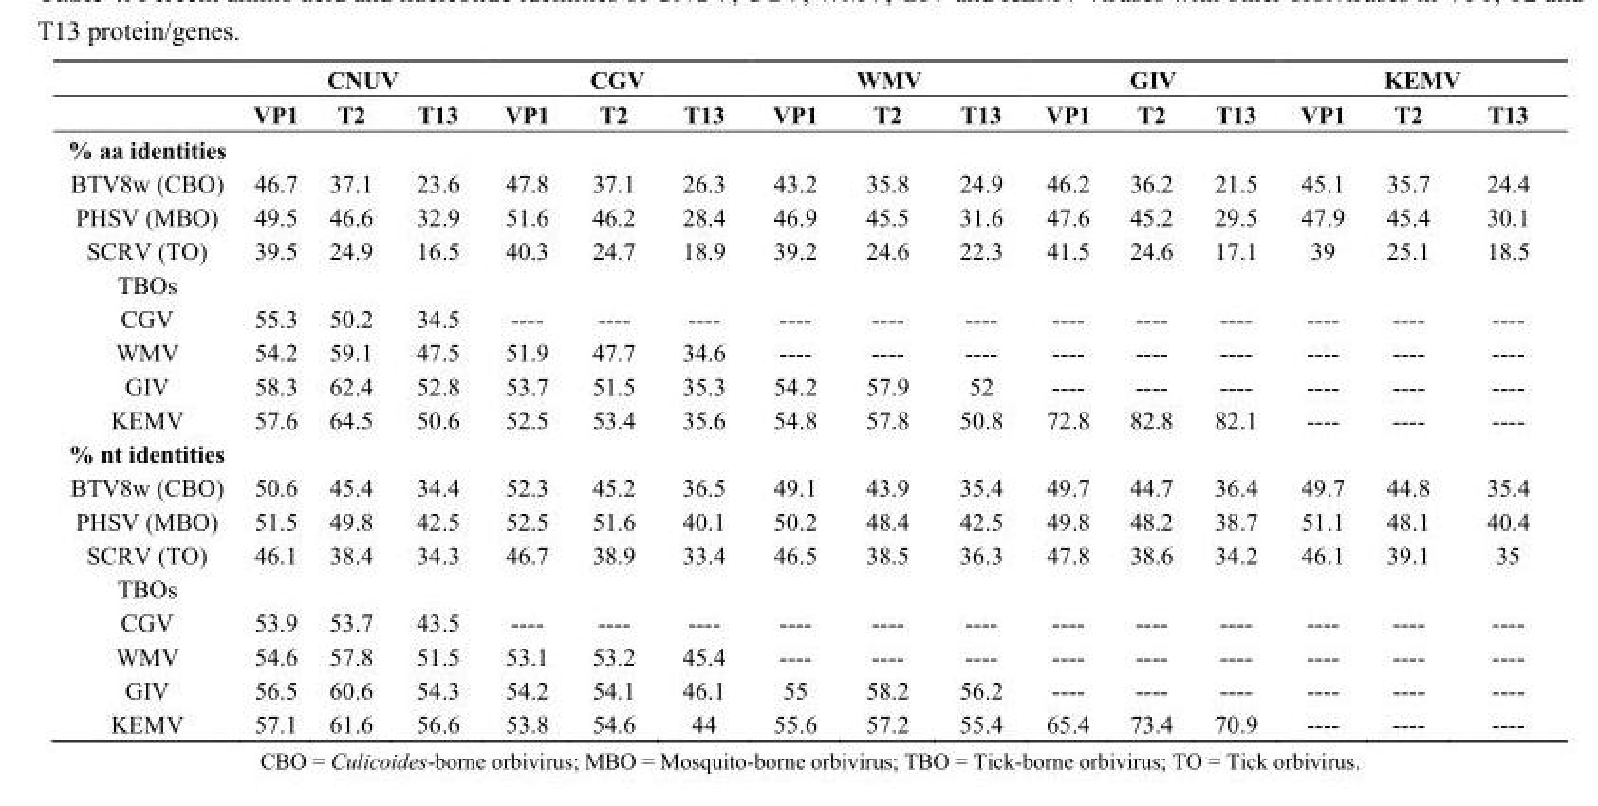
<table><thead><tr><td rowspan="2"></td><td colspan="3">CNUV</td><td colspan="3">CGV</td><td colspan="3">WMV</td><td colspan="3">GIV</td><td colspan="3">KEMV</td></tr><tr><td>VP1</td><td>T2</td><td>T13</td><td>VP1</td><td>T2</td><td>T13</td><td>VP1</td><td>T2</td><td>T13</td><td>VP1</td><td>T2</td><td>T13</td><td>VP1</td><td>T2</td><td>T13</td></tr></thead><tbody><tr><td colspan="16">% aa identities</td></tr><tr><td>BTV8w (CBO)</td><td>46.7</td><td>37.1</td><td>23.6</td><td>47.8</td><td>37.1</td><td>26.3</td><td>43.2</td><td>35.8</td><td>24.9</td><td>46.2</td><td>36.2</td><td>21.5</td><td>45.1</td><td>35.7</td><td>24.4</td></tr><tr><td>PHSV (MBO)</td><td>49.5</td><td>46.6</td><td>32.9</td><td>51.6</td><td>46.2</td><td>28.4</td><td>46.9</td><td>45.5</td><td>31.6</td><td>47.6</td><td>45.2</td><td>29.5</td><td>47.9</td><td>45.4</td><td>30.1</td></tr><tr><td>SCRV (TO)</td><td>39.5</td><td>24.9</td><td>16.5</td><td>40.3</td><td>24.7</td><td>18.9</td><td>39.2</td><td>24.6</td><td>22.3</td><td>41.5</td><td>24.6</td><td>17.1</td><td>39</td><td>25.1</td><td>18.5</td></tr><tr><td colspan="16">TBOs</td></tr><tr><td>CGV</td><td>55.3</td><td>50.2</td><td>34.5</td><td>----</td><td>----</td><td>----</td><td>----</td><td>----</td><td>----</td><td>----</td><td>----</td><td>----</td><td>----</td><td>----</td><td>----</td></tr><tr><td>WMV</td><td>54.2</td><td>59.1</td><td>47.5</td><td>51.9</td><td>47.7</td><td>34.6</td><td>----</td><td>----</td><td>----</td><td>----</td><td>----</td><td>----</td><td>----</td><td>----</td><td>----</td></tr><tr><td>GIV</td><td>58.3</td><td>62.4</td><td>52.8</td><td>53.7</td><td>51.5</td><td>35.3</td><td>54.2</td><td>57.9</td><td>52</td><td>----</td><td>----</td><td>----</td><td>----</td><td>----</td><td>----</td></tr><tr><td>KEMV</td><td>57.6</td><td>64.5</td><td>50.6</td><td>52.5</td><td>53.4</td><td>35.6</td><td>54.8</td><td>57.8</td><td>50.8</td><td>72.8</td><td>82.8</td><td>82.1</td><td>----</td><td>----</td><td>----</td></tr><tr><td colspan="16">% nt identities</td></tr><tr><td>BTV8w (CBO)</td><td>50.6</td><td>45.4</td><td>34.4</td><td>52.3</td><td>45.2</td><td>36.5</td><td>49.1</td><td>43.9</td><td>35.4</td><td>49.7</td><td>44.7</td><td>36.4</td><td>49.7</td><td>44.8</td><td>35.4</td></tr><tr><td>PHSV (MBO)</td><td>51.5</td><td>49.8</td><td>42.5</td><td>52.5</td><td>51.6</td><td>40.1</td><td>50.2</td><td>48.4</td><td>42.5</td><td>49.8</td><td>48.2</td><td>38.7</td><td>51.1</td><td>48.1</td><td>40.4</td></tr><tr><td>SCRV (TO)</td><td>46.1</td><td>38.4</td><td>34.3</td><td>46.7</td><td>38.9</td><td>33.4</td><td>46.5</td><td>38.5</td><td>36.3</td><td>47.8</td><td>38.6</td><td>34.2</td><td>46.1</td><td>39.1</td><td>35</td></tr><tr><td colspan="16">TBOs</td></tr><tr><td>CGV</td><td>53.9</td><td>53.7</td><td>43.5</td><td>----</td><td>----</td><td>----</td><td>----</td><td>----</td><td>----</td><td>----</td><td>----</td><td>----</td><td>----</td><td>----</td><td>----</td></tr><tr><td>WMV</td><td>54.6</td><td>57.8</td><td>51.5</td><td>53.1</td><td>53.2</td><td>45.4</td><td>----</td><td>----</td><td>----</td><td>----</td><td>----</td><td>----</td><td>----</td><td>----</td><td>----</td></tr><tr><td>GIV</td><td>56.5</td><td>60.6</td><td>54.3</td><td>54.2</td><td>54.1</td><td>46.1</td><td>55</td><td>58.2</td><td>56.2</td><td>----</td><td>----</td><td>----</td><td>----</td><td>----</td><td>----</td></tr><tr><td>KEMV</td><td>57.1</td><td>61.6</td><td>56.6</td><td>53.8</td><td>54.6</td><td>44</td><td>55.6</td><td>57.2</td><td>55.4</td><td>65.4</td><td>73.4</td><td>70.9</td><td>----</td><td>----</td><td>----</td></tr></tbody></table>